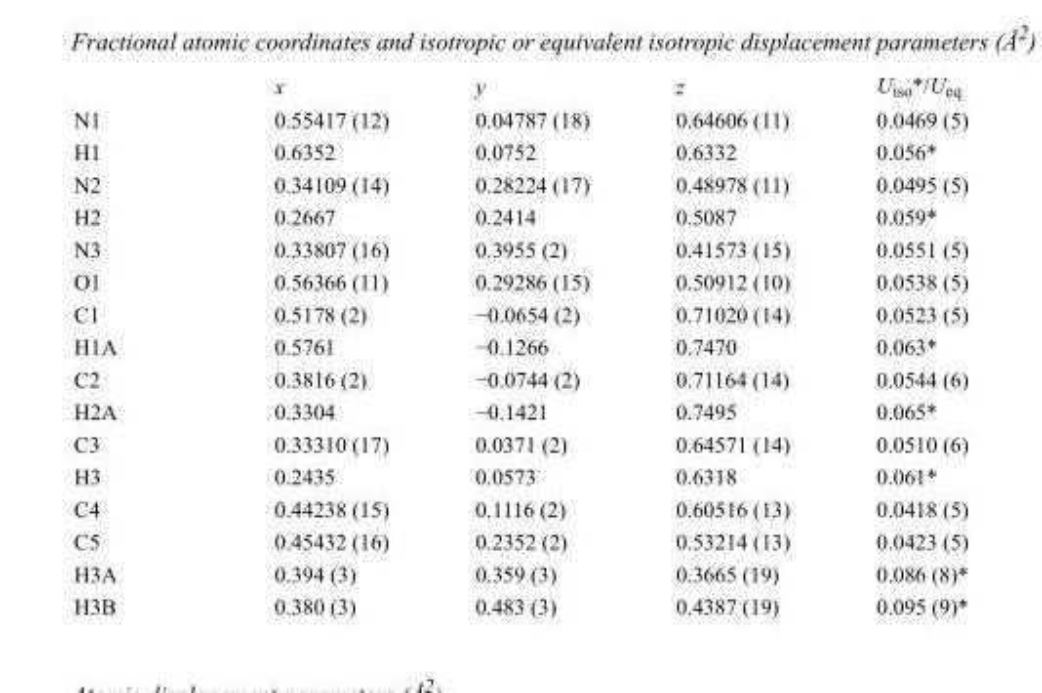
<table><thead><tr><td></td><td>x</td><td>y</td><td>z</td><td>U<sub>iso</sub>*/U<sub>eq</sub></td></tr></thead><tbody><tr><td>N1</td><td>0.55417 (12)</td><td>0.04787 (18)</td><td>0.64606 (11)</td><td>0.0469 (5)</td></tr><tr><td>H1</td><td>0.6352</td><td>0.0752</td><td>0.6332</td><td>0.056*</td></tr><tr><td>N2</td><td>0.34109 (14)</td><td>0.28224 (17)</td><td>0.48978 (11)</td><td>0.0495 (5)</td></tr><tr><td>H2</td><td>0.2667</td><td>0.2414</td><td>0.5087</td><td>0.059*</td></tr><tr><td>N3</td><td>0.33807 (16)</td><td>0.3955 (2)</td><td>0.41573 (15)</td><td>0.0551 (5)</td></tr><tr><td>O1</td><td>0.56366 (11)</td><td>0.29286 (15)</td><td>0.50912 (10)</td><td>0.0538 (5)</td></tr><tr><td>C1</td><td>0.5178 (2)</td><td>−0.0654 (2)</td><td>0.71020 (14)</td><td>0.0523 (5)</td></tr><tr><td>H1A</td><td>0.5761</td><td>−0.1266</td><td>0.7470</td><td>0.063*</td></tr><tr><td>C2</td><td>0.3816 (2)</td><td>−0.0744 (2)</td><td>0.71164 (14)</td><td>0.0544 (6)</td></tr><tr><td>H2A</td><td>0.3304</td><td>−0.1421</td><td>0.7495</td><td>0.065*</td></tr><tr><td>C3</td><td>0.33310 (17)</td><td>0.0371 (2)</td><td>0.64571 (14)</td><td>0.0510 (6)</td></tr><tr><td>H3</td><td>0.2435</td><td>0.0573</td><td>0.6318</td><td>0.061*</td></tr><tr><td>C4</td><td>0.44238 (15)</td><td>0.1116 (2)</td><td>0.60516 (13)</td><td>0.0418 (5)</td></tr><tr><td>C5</td><td>0.45432 (16)</td><td>0.2352 (2)</td><td>0.53214 (13)</td><td>0.0423 (5)</td></tr><tr><td>H3A</td><td>0.394 (3)</td><td>0.359 (3)</td><td>0.3665 (19)</td><td>0.086 (8)*</td></tr><tr><td>H3B</td><td>0.380 (3)</td><td>0.483 (3)</td><td>0.4387 (19)</td><td>0.095 (9)*</td></tr></tbody></table>